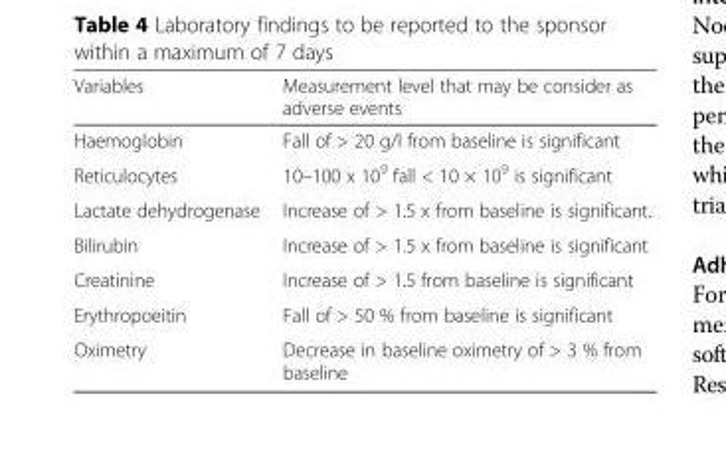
<table><thead><tr><td>Variables</td><td>Measurement level that may be consider as adverse events</td></tr></thead><tbody><tr><td>Haemoglobin</td><td>Fall of &gt; 20 g/l from baseline is significant</td></tr><tr><td>Reticulocytes</td><td>10–100 x 10<sup>9</sup> fall &lt; 10 × 10<sup>9</sup> is significant</td></tr><tr><td>Lactate dehydrogenase</td><td>Increase of &gt; 1.5 x from baseline is significant.</td></tr><tr><td>Bilirubin</td><td>Increase of &gt; 1.5 x from baseline is significant</td></tr><tr><td>Creatinine</td><td>Increase of &gt; 1.5 from baseline is significant</td></tr><tr><td>Erythropoeitin</td><td>Fall of &gt; 50 % from baseline is significant</td></tr><tr><td>Oximetry</td><td>Decrease in baseline oximetry of &gt; 3 % from baseline</td></tr></tbody></table>